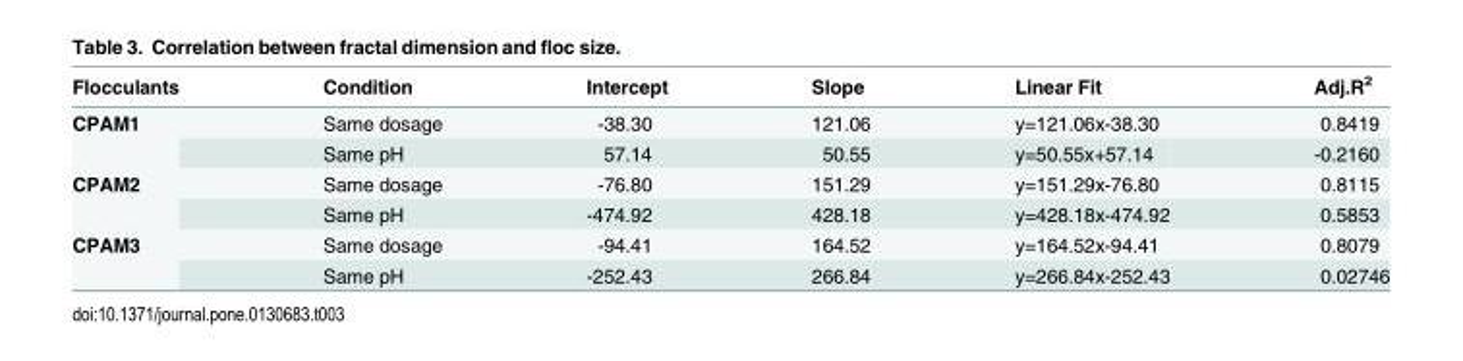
<table><thead><tr><td>Flocculants</td><td>Condition</td><td>Intercept</td><td>Slope</td><td>Linear Fit</td><td>Adj.R<sup>2</sup></td></tr></thead><tbody><tr><td rowspan="2">CPAM1</td><td>Same dosage</td><td>-38.30</td><td>121.06</td><td>y=121.06x-38.30</td><td>0.8419</td></tr><tr><td>Same pH</td><td>57.14</td><td>50.55</td><td>y=50.55x+57.14</td><td>-0.2160</td></tr><tr><td rowspan="2">CPAM2</td><td>Same dosage</td><td>-76.80</td><td>151.29</td><td>y=151.29x-76.80</td><td>0.8115</td></tr><tr><td>Same pH</td><td>-474.92</td><td>428.18</td><td>y=428.18x-474.92</td><td>0.5853</td></tr><tr><td rowspan="2">CPAM3</td><td>Same dosage</td><td>-94.41</td><td>164.52</td><td>y=164.52x-94.41</td><td>0.8079</td></tr><tr><td>Same pH</td><td>-252.43</td><td>266.84</td><td>y=266.84x-252.43</td><td>0.02746</td></tr></tbody></table>